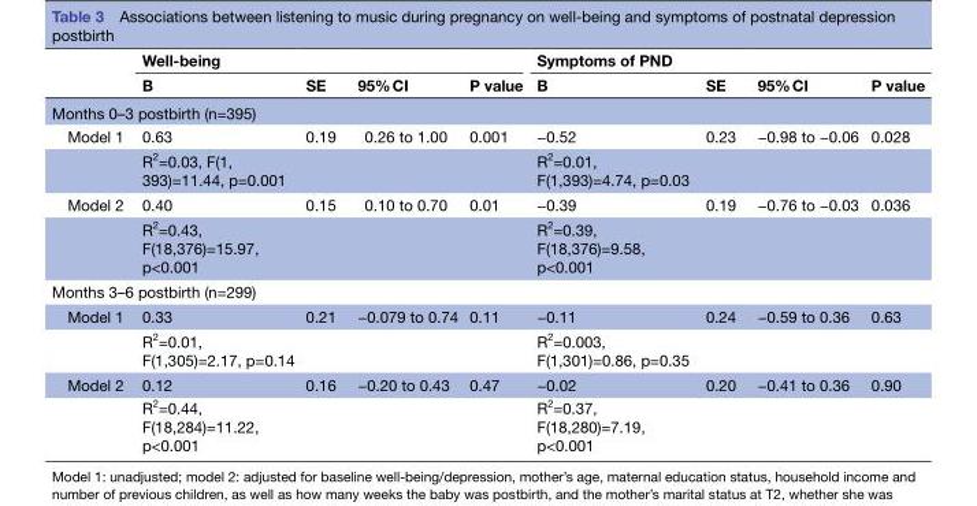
<table><thead><tr><td rowspan="2"></td><td colspan="4">Well-being</td><td colspan="4">Symptoms of PND</td></tr><tr><td>B</td><td>SE</td><td>95% CI</td><td>P value</td><td>B</td><td>SE</td><td>95% CI</td><td>P value</td></tr></thead><tbody><tr><td colspan="9">Months 0–3 postbirth (n=395)</td></tr><tr><td rowspan="2">Model 1</td><td>0.63</td><td>0.19</td><td>0.26 to 1.00</td><td>0.001</td><td>−0.52</td><td>0.23</td><td>−0.98 to −0.06</td><td>0.028</td></tr><tr><td>R<sup>2</sup>=0.03, F(1, 393)=11.44, p=0.001</td><td></td><td></td><td></td><td>R<sup>2</sup>=0.01, F(1,393)=4.74, p=0.03</td><td></td><td></td><td></td></tr><tr><td rowspan="2">Model 2</td><td>0.40</td><td>0.15</td><td>0.10 to 0.70</td><td>0.01</td><td>−0.39</td><td>0.19</td><td>−0.76 to −0.03</td><td>0.036</td></tr><tr><td>R<sup>2</sup>=0.43, F(18,376)=15.97, p&lt;0.001</td><td></td><td></td><td></td><td>R<sup>2</sup>=0.39, F(18,376)=9.58, p&lt;0.001</td><td></td><td></td><td></td></tr><tr><td colspan="9">Months 3–6 postbirth (n=299)</td></tr><tr><td rowspan="2">Model 1</td><td>0.33</td><td>0.21</td><td>−0.079 to 0.74</td><td>0.11</td><td>−0.11</td><td>0.24</td><td>−0.59 to 0.36</td><td>0.63</td></tr><tr><td>R<sup>2</sup>=0.01, F(1,305)=2.17, p=0.14</td><td></td><td></td><td></td><td>R<sup>2</sup>=0.003, F(1,301)=0.86, p=0.35</td><td></td><td></td><td></td></tr><tr><td rowspan="2">Model 2</td><td>0.12</td><td>0.16</td><td>−0.20 to 0.43</td><td>0.47</td><td>−0.02</td><td>0.20</td><td>−0.41 to 0.36</td><td>0.90</td></tr><tr><td>R<sup>2</sup>=0.44, F(18,284)=11.22, p&lt;0.001</td><td></td><td></td><td></td><td>R<sup>2</sup>=0.37, F(18,280)=7.19, p&lt;0.001</td><td></td><td></td><td></td></tr></tbody></table>